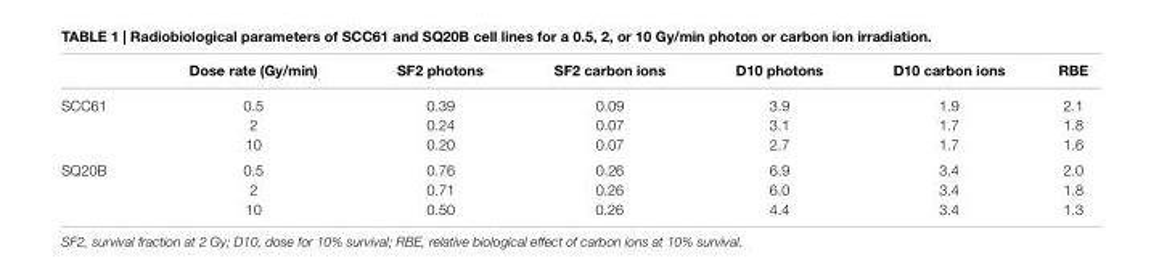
<table><thead><tr><td></td><td>Dose rate (gy/min)</td><td>sF2 photons</td><td>sF2 carbon ions</td><td>D10 photons</td><td>D10 carbon ions</td><td>rBe</td></tr></thead><tbody><tr><td rowspan="3">SCC61</td><td>0.5</td><td>0.39</td><td>0.09</td><td>3.9</td><td>1.9</td><td>2.1</td></tr><tr><td>2</td><td>0.24</td><td>0.07</td><td>3.1</td><td>1.7</td><td>1.8</td></tr><tr><td>10</td><td>0.20</td><td>0.07</td><td>2.7</td><td>1.7</td><td>1.6</td></tr><tr><td rowspan="3">SQ20B</td><td>0.5</td><td>0.76</td><td>0.26</td><td>6.9</td><td>3.4</td><td>2.0</td></tr><tr><td>2</td><td>0.71</td><td>0.26</td><td>6.0</td><td>3.4</td><td>1.8</td></tr><tr><td>10</td><td>0.50</td><td>0.26</td><td>4.4</td><td>3.4</td><td>1.3</td></tr></tbody></table>